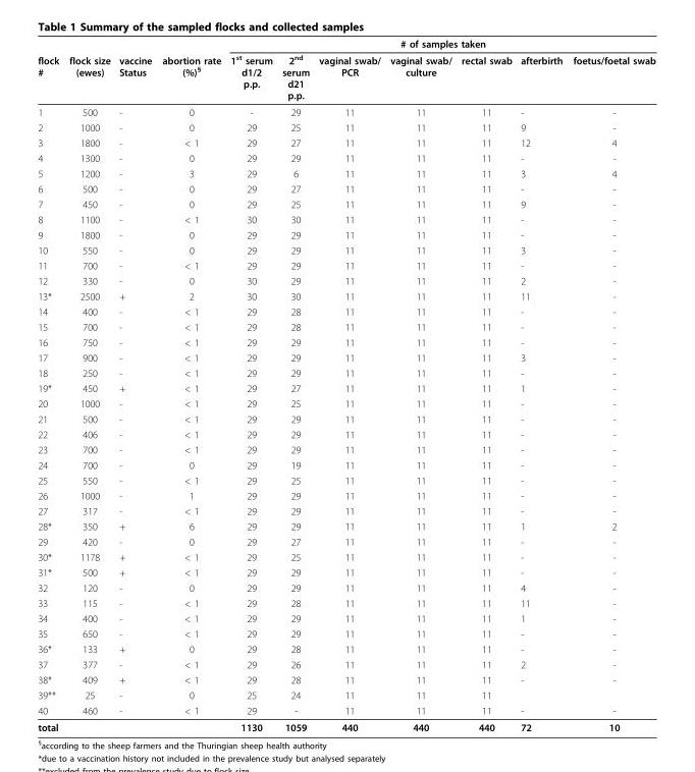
<table><thead><tr><td rowspan="2">flock #</td><td rowspan="2">flock size (ewes)</td><td rowspan="2">vaccine Status</td><td rowspan="2">abortion rate (%)<sup>§</sup></td><td colspan="7"># of samples taken</td></tr><tr><td>1<sup>st</sup> serum d1/2 p.p.</td><td>2<sup>nd</sup> serum d21 p.p.</td><td>vaginal swab/ PCR</td><td>vaginal swab/ culture</td><td>rectal swab</td><td>afterbirth</td><td>foetus/foetal swab</td></tr></thead><tbody><tr><td>1</td><td>500</td><td>-</td><td>0</td><td>-</td><td>29</td><td>11</td><td>11</td><td>11</td><td>-</td><td>-</td></tr><tr><td>2</td><td>1000</td><td>-</td><td>0</td><td>29</td><td>25</td><td>11</td><td>11</td><td>11</td><td>9</td><td>-</td></tr><tr><td>3</td><td>1800</td><td>-</td><td>&lt; 1</td><td>29</td><td>27</td><td>11</td><td>11</td><td>11</td><td>12</td><td>4</td></tr><tr><td>4</td><td>1300</td><td>-</td><td>0</td><td>29</td><td>29</td><td>11</td><td>11</td><td>11</td><td>-</td><td>-</td></tr><tr><td>5</td><td>1200</td><td>-</td><td>3</td><td>29</td><td>6</td><td>11</td><td>11</td><td>11</td><td>3</td><td>4</td></tr><tr><td>6</td><td>500</td><td>-</td><td>0</td><td>29</td><td>27</td><td>11</td><td>11</td><td>11</td><td>-</td><td>-</td></tr><tr><td>7</td><td>450</td><td>-</td><td>0</td><td>29</td><td>25</td><td>11</td><td>11</td><td>11</td><td>9</td><td>-</td></tr><tr><td>8</td><td>1100</td><td>-</td><td>&lt; 1</td><td>30</td><td>30</td><td>11</td><td>11</td><td>11</td><td>-</td><td>-</td></tr><tr><td>9</td><td>1800</td><td>-</td><td>0</td><td>29</td><td>29</td><td>11</td><td>11</td><td>11</td><td>-</td><td>-</td></tr><tr><td>10</td><td>550</td><td>-</td><td>0</td><td>29</td><td>29</td><td>11</td><td>11</td><td>11</td><td>3</td><td>-</td></tr><tr><td>11</td><td>700</td><td>-</td><td>&lt; 1</td><td>29</td><td>29</td><td>11</td><td>11</td><td>11</td><td>-</td><td>-</td></tr><tr><td>12</td><td>330</td><td>-</td><td>0</td><td>30</td><td>29</td><td>11</td><td>11</td><td>11</td><td>2</td><td>-</td></tr><tr><td>13*</td><td>2500</td><td>+</td><td>2</td><td>30</td><td>30</td><td>11</td><td>11</td><td>11</td><td>11</td><td>-</td></tr><tr><td>14</td><td>400</td><td>-</td><td>&lt; 1</td><td>29</td><td>28</td><td>11</td><td>11</td><td>11</td><td>-</td><td>-</td></tr><tr><td>15</td><td>700</td><td>-</td><td>&lt; 1</td><td>29</td><td>28</td><td>11</td><td>11</td><td>11</td><td>-</td><td>-</td></tr><tr><td>16</td><td>750</td><td>-</td><td>&lt; 1</td><td>29</td><td>29</td><td>11</td><td>11</td><td>11</td><td>-</td><td>-</td></tr><tr><td>17</td><td>900</td><td>-</td><td>&lt; 1</td><td>29</td><td>29</td><td>11</td><td>11</td><td>11</td><td>3</td><td>-</td></tr><tr><td>18</td><td>250</td><td>-</td><td>&lt; 1</td><td>29</td><td>29</td><td>11</td><td>11</td><td>11</td><td>-</td><td>-</td></tr><tr><td>19*</td><td>450</td><td>+</td><td>&lt; 1</td><td>29</td><td>27</td><td>11</td><td>11</td><td>11</td><td>1</td><td>-</td></tr><tr><td>20</td><td>1000</td><td>-</td><td>&lt; 1</td><td>29</td><td>25</td><td>11</td><td>11</td><td>11</td><td>-</td><td>-</td></tr><tr><td>21</td><td>500</td><td>-</td><td>&lt; 1</td><td>29</td><td>29</td><td>11</td><td>11</td><td>11</td><td>-</td><td>-</td></tr><tr><td>22</td><td>406</td><td>-</td><td>&lt; 1</td><td>29</td><td>29</td><td>11</td><td>11</td><td>11</td><td>-</td><td>-</td></tr><tr><td>23</td><td>700</td><td>-</td><td>&lt; 1</td><td>29</td><td>29</td><td>11</td><td>11</td><td>11</td><td>-</td><td>-</td></tr><tr><td>24</td><td>700</td><td>-</td><td>0</td><td>29</td><td>19</td><td>11</td><td>11</td><td>11</td><td>-</td><td>-</td></tr><tr><td>25</td><td>550</td><td>-</td><td>&lt; 1</td><td>29</td><td>25</td><td>11</td><td>11</td><td>11</td><td>-</td><td>-</td></tr><tr><td>26</td><td>1000</td><td>-</td><td>1</td><td>29</td><td>29</td><td>11</td><td>11</td><td>11</td><td>-</td><td>-</td></tr><tr><td>27</td><td>317</td><td>-</td><td>&lt; 1</td><td>29</td><td>29</td><td>11</td><td>11</td><td>11</td><td>-</td><td>-</td></tr><tr><td>28*</td><td>350</td><td>+</td><td>6</td><td>29</td><td>29</td><td>11</td><td>11</td><td>11</td><td>1</td><td>2</td></tr><tr><td>29</td><td>420</td><td>-</td><td>0</td><td>29</td><td>27</td><td>11</td><td>11</td><td>11</td><td>-</td><td>-</td></tr><tr><td>30*</td><td>1178</td><td>+</td><td>&lt; 1</td><td>29</td><td>25</td><td>11</td><td>11</td><td>11</td><td>-</td><td>-</td></tr><tr><td>31*</td><td>500</td><td>+</td><td>&lt; 1</td><td>29</td><td>29</td><td>11</td><td>11</td><td>11</td><td>-</td><td>-</td></tr><tr><td>32</td><td>120</td><td>-</td><td>0</td><td>29</td><td>29</td><td>11</td><td>11</td><td>11</td><td>4</td><td>-</td></tr><tr><td>33</td><td>115</td><td>-</td><td>&lt; 1</td><td>29</td><td>28</td><td>11</td><td>11</td><td>11</td><td>11</td><td>-</td></tr><tr><td>34</td><td>400</td><td>-</td><td>&lt; 1</td><td>29</td><td>29</td><td>11</td><td>11</td><td>11</td><td>1</td><td>-</td></tr><tr><td>35</td><td>650</td><td>-</td><td>&lt; 1</td><td>29</td><td>29</td><td>11</td><td>11</td><td>11</td><td>-</td><td>-</td></tr><tr><td>36*</td><td>133</td><td>+</td><td>0</td><td>29</td><td>28</td><td>11</td><td>11</td><td>11</td><td>-</td><td>-</td></tr><tr><td>37</td><td>377</td><td>-</td><td>&lt; 1</td><td>29</td><td>26</td><td>11</td><td>11</td><td>11</td><td>2</td><td>-</td></tr><tr><td>38*</td><td>409</td><td>+</td><td>&lt; 1</td><td>29</td><td>28</td><td>11</td><td>11</td><td>11</td><td>-</td><td>-</td></tr><tr><td>39**</td><td>25</td><td>-</td><td>0</td><td>25</td><td>24</td><td>11</td><td>11</td><td>11</td><td></td><td></td></tr><tr><td>40</td><td>460</td><td>-</td><td>&lt; 1</td><td>29</td><td>-</td><td>11</td><td>11</td><td>11</td><td>-</td><td>-</td></tr><tr><td>total</td><td></td><td></td><td></td><td>1130</td><td>1059</td><td>440</td><td>440</td><td>440</td><td>72</td><td>10</td></tr></tbody></table>